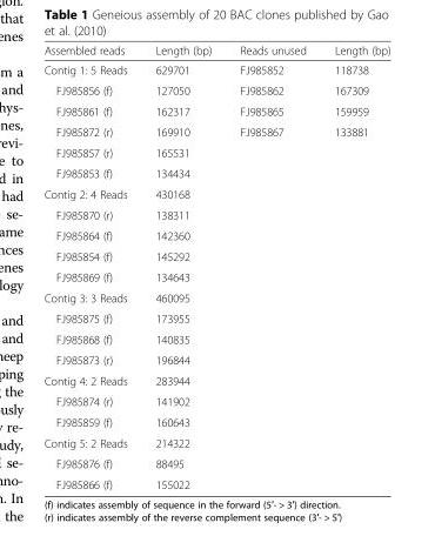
<table><thead><tr><td>Assembled reads</td><td>Length (bp)</td><td>Reads unused</td><td>Length (bp)</td></tr></thead><tbody><tr><td>Contig 1: 5 Reads</td><td>629701</td><td>FJ985852</td><td>118738</td></tr><tr><td>FJ985856 (f)</td><td>127050</td><td>FJ985862</td><td>167309</td></tr><tr><td>FJ985861 (f)</td><td>162317</td><td>FJ985865</td><td>159959</td></tr><tr><td>FJ985872 (r)</td><td>169910</td><td>FJ985867</td><td>133881</td></tr><tr><td>FJ985857 (r)</td><td>165531</td><td></td><td></td></tr><tr><td>FJ985853 (f)</td><td>134434</td><td></td><td></td></tr><tr><td>Contig 2: 4 Reads</td><td>430168</td><td></td><td></td></tr><tr><td>FJ985870 (r)</td><td>138311</td><td></td><td></td></tr><tr><td>FJ985864 (f)</td><td>142360</td><td></td><td></td></tr><tr><td>FJ985854 (f)</td><td>145292</td><td></td><td></td></tr><tr><td>FJ985869 (f)</td><td>134643</td><td></td><td></td></tr><tr><td>Contig 3: 3 Reads</td><td>460095</td><td></td><td></td></tr><tr><td>FJ985875 (f)</td><td>173955</td><td></td><td></td></tr><tr><td>FJ985868 (f)</td><td>140835</td><td></td><td></td></tr><tr><td>FJ985873 (r)</td><td>196844</td><td></td><td></td></tr><tr><td>Contig 4: 2 Reads</td><td>283944</td><td></td><td></td></tr><tr><td>FJ985874 (r)</td><td>141902</td><td></td><td></td></tr><tr><td>FJ985859 (f)</td><td>160643</td><td></td><td></td></tr><tr><td>Contig 5: 2 Reads</td><td>214322</td><td></td><td></td></tr><tr><td>FJ985876 (f)</td><td>88495</td><td></td><td></td></tr><tr><td>FJ985866 (f)</td><td>155022</td><td></td><td></td></tr></tbody></table>